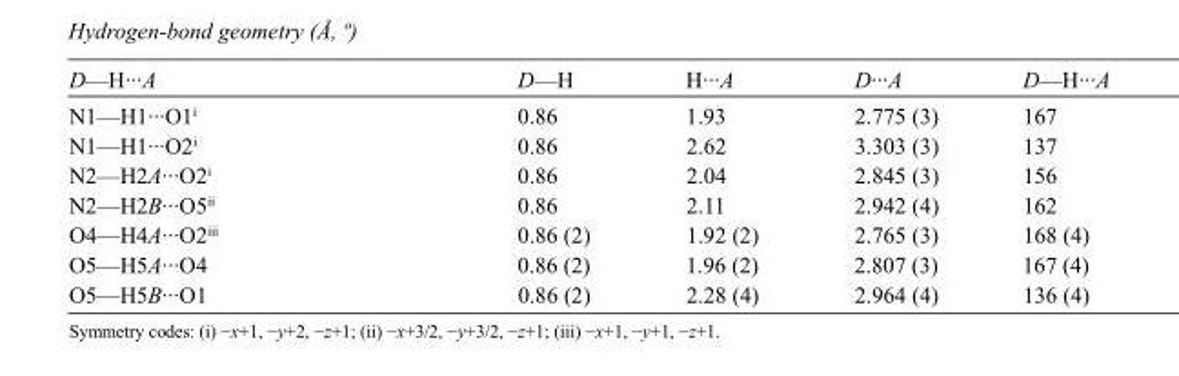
<table><tbody><tr><td>D—H···A</td><td>D—H</td><td>H···A</td><td>D···A</td><td>D—H···A</td></tr><tr><td>N1—H1···O1<sup>i</sup></td><td>0.86</td><td>1.93</td><td>2.775 (3)</td><td>167</td></tr><tr><td>N1—H1···O2<sup>i</sup></td><td>0.86</td><td>2.62</td><td>3.303 (3)</td><td>137</td></tr><tr><td>N2—H2A···O2<sup>i</sup></td><td>0.86</td><td>2.04</td><td>2.845 (3)</td><td>156</td></tr><tr><td>N2—H2B···O5<sup>ii</sup></td><td>0.86</td><td>2.11</td><td>2.942 (4)</td><td>162</td></tr><tr><td>O4—H4A···O2<sup>iii</sup></td><td>0.86 (2)</td><td>1.92 (2)</td><td>2.765 (3)</td><td>168 (4)</td></tr><tr><td>O5—H5A···O4</td><td>0.86 (2)</td><td>1.96 (2)</td><td>2.807 (3)</td><td>167 (4)</td></tr><tr><td>O5—H5B···O1</td><td>0.86 (2)</td><td>2.28 (4)</td><td>2.964 (4)</td><td>136 (4)</td></tr></tbody></table>